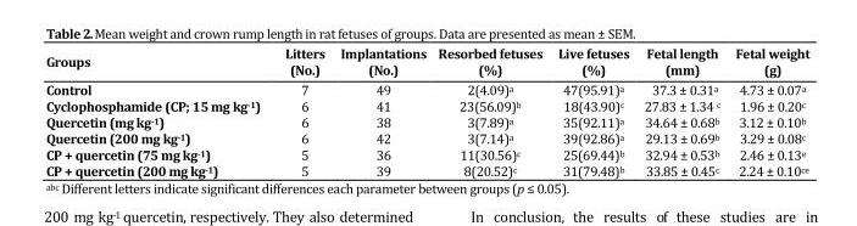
<table><thead><tr><td>Groups</td><td>Litters (No.)</td><td>Implantations (No.)</td><td>Resorbed fetuses (%)</td><td>Live fetuses (%)</td><td>Fetal length (mm)</td><td>Fetal weight (g)</td></tr></thead><tbody><tr><td>Control</td><td>7</td><td>49</td><td>2(4.09)<sup>a</sup></td><td>47(95.91)<sup>a</sup></td><td>37.3 ± 0.31<sup>a</sup></td><td>4.73 ± 0.07<sup>a</sup></td></tr><tr><td>Cyclophosphamide (CP; 15 mg kg<sup>-1</sup>)</td><td>6</td><td>41</td><td>23(56.09)<sup>b</sup></td><td>18(43.90)<sup>c</sup></td><td>27.83 ± 1.34 c</td><td>1.96 ± 0.20<sup>c</sup></td></tr><tr><td>Quercetin (mg kg<sup>-1</sup>)</td><td>6</td><td>38</td><td>3(7.89)<sup>a</sup></td><td>35(92.11)<sup>a</sup></td><td>34.64 ± 0.68<sup>b</sup></td><td>3.12 ± 0.10<sup>b</sup></td></tr><tr><td>Quercetin (200 mg kg<sup>-1</sup>)</td><td>6</td><td>42</td><td>3(7.14)<sup>a</sup></td><td>39(92.86)<sup>a</sup></td><td>29.13 ± 0.69<sup>b</sup></td><td>3.29 ± 0.08<sup>c</sup></td></tr><tr><td>CP + quercetin (75 mg kg<sup>-1</sup>)</td><td>5</td><td>36</td><td>11(30.56)<sup>c</sup></td><td>25(69.44)<sup>b</sup></td><td>32.94 ± 0.53<sup>b</sup></td><td>2.46 ± 0.13<sup>e</sup></td></tr><tr><td>CP + quercetin (200 mg kg<sup>-1</sup>)</td><td>5</td><td>39</td><td>8(20.52)<sup>c</sup></td><td>31(79.48)<sup>b</sup></td><td>33.85 ± 0.45<sup>c</sup></td><td>2.24 ± 0.10<sup>ce</sup></td></tr></tbody></table>